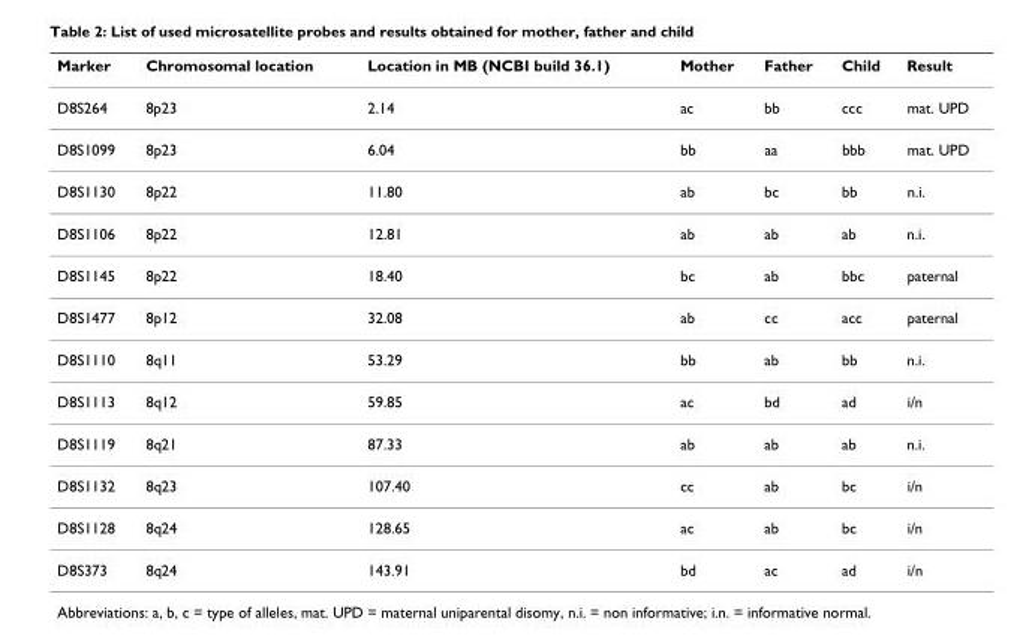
<table><thead><tr><td>Marker</td><td>Chromosomal location</td><td>Location in MB (NCBI build 36.1)</td><td>Mother</td><td>Father</td><td>Child</td><td>Result</td></tr></thead><tbody><tr><td>D8S264</td><td>8p23</td><td>2.14</td><td>ac</td><td>bb</td><td>ccc</td><td>mat. UPD</td></tr><tr><td>D8S1099</td><td>8p23</td><td>6.04</td><td>bb</td><td>aa</td><td>bbb</td><td>mat. UPD</td></tr><tr><td>D8S1130</td><td>8p22</td><td>11.80</td><td>ab</td><td>bc</td><td>bb</td><td>n.i.</td></tr><tr><td>D8S1106</td><td>8p22</td><td>12.81</td><td>ab</td><td>ab</td><td>ab</td><td>n.i.</td></tr><tr><td>D8S1145</td><td>8p22</td><td>18.40</td><td>bc</td><td>ab</td><td>bbc</td><td>paternal</td></tr><tr><td>D8S1477</td><td>8p12</td><td>32.08</td><td>ab</td><td>cc</td><td>acc</td><td>paternal</td></tr><tr><td>D8S1110</td><td>8q11</td><td>53.29</td><td>bb</td><td>ab</td><td>bb</td><td>n.i.</td></tr><tr><td>D8S1113</td><td>8q12</td><td>59.85</td><td>ac</td><td>bd</td><td>ad</td><td>i/n</td></tr><tr><td>D8S1119</td><td>8q21</td><td>87.33</td><td>ab</td><td>ab</td><td>ab</td><td>n.i.</td></tr><tr><td>D8S1132</td><td>8q23</td><td>107.40</td><td>cc</td><td>ab</td><td>bc</td><td>i/n</td></tr><tr><td>D8S1128</td><td>8q24</td><td>128.65</td><td>ac</td><td>ab</td><td>bc</td><td>i/n</td></tr><tr><td>D8S373</td><td>8q24</td><td>143.91</td><td>bd</td><td>ac</td><td>ad</td><td>i/n</td></tr></tbody></table>